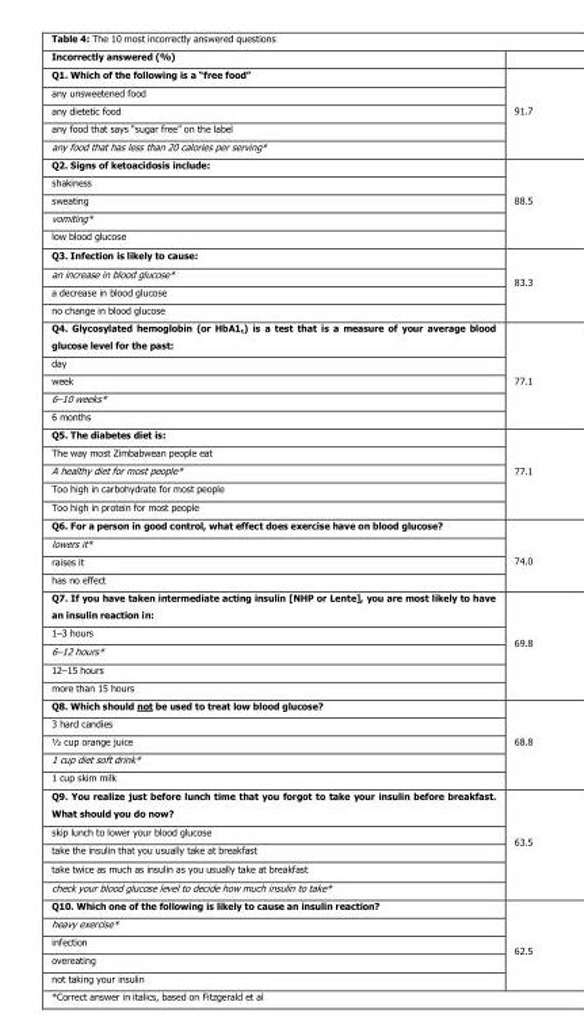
<table><thead><tr><td>Incorrectly answered (%)</td><td></td></tr></thead><tbody><tr><td>Q1. Which of the following is a “free food”</td><td rowspan="5">91.7</td></tr><tr><td>any unsweetened food</td></tr><tr><td>any dietetic food</td></tr><tr><td>any food that says “sugar free” on the label</td></tr><tr><td>any food that has less than 20 calories per serving*</td></tr><tr><td>Q2. Signs of ketoacidosis include:</td><td rowspan="5">88.5</td></tr><tr><td>shakiness</td></tr><tr><td>sweating</td></tr><tr><td>vomiting*</td></tr><tr><td>low blood glucose</td></tr><tr><td>Q3. Infection is likely to cause:</td><td rowspan="4">83.3</td></tr><tr><td>an increase in blood glucose*</td></tr><tr><td>a decrease in blood glucose</td></tr><tr><td>no change in blood glucose</td></tr><tr><td>Q4. Glycosylated hemoglobin (or HbA1<sub>c</sub>) is a test that is a measure of your average blood glucose level for the past:</td><td rowspan="5">77.1</td></tr><tr><td>day</td></tr><tr><td>week</td></tr><tr><td>6–10 weeks*</td></tr><tr><td>6 months</td></tr><tr><td>Q5. The diabetes diet is:</td><td rowspan="5">77.1</td></tr><tr><td>The way most Zimbabwean people eat</td></tr><tr><td>A healthy diet for most people*</td></tr><tr><td>Too high in carbohydrate for most people</td></tr><tr><td>Too high in protein for most people</td></tr><tr><td>Q6. For a person in good control, what effect does exercise have on blood glucose?</td><td rowspan="4">74.0</td></tr><tr><td>lowers it*</td></tr><tr><td>raises it</td></tr><tr><td>has no effect</td></tr><tr><td>Q7. If you have taken intermediate acting insulin [NHP or Lente], you are most likely to have an insulin reaction in:</td><td rowspan="5">69.8</td></tr><tr><td>1–3 hours</td></tr><tr><td>6–12 hours*</td></tr><tr><td>12–15 hours</td></tr><tr><td>more than 15 hours</td></tr><tr><td>Q8. Which should not be used to treat low blood glucose?</td><td rowspan="5">68.8</td></tr><tr><td>3 hard candies</td></tr><tr><td>½ cup orange juice</td></tr><tr><td>1 cup diet soft drink*</td></tr><tr><td>1 cup skim milk</td></tr><tr><td>Q9. You realize just before lunch time that you forgot to take your insulin before breakfast. What should you do now?</td><td rowspan="5">63.5</td></tr><tr><td>skip lunch to lower your blood glucose</td></tr><tr><td>take the insulin that you usually take at breakfast</td></tr><tr><td>take twice as much as insulin as you usually take at breakfast</td></tr><tr><td>check your blood glucose level to decide how much insulin to take*</td></tr><tr><td>Q10. Which one of the following is likely to cause an insulin reaction?</td><td rowspan="5">62.5</td></tr><tr><td>heavy exercise*</td></tr><tr><td>infection</td></tr><tr><td>overeating</td></tr><tr><td>not taking your insulin</td></tr></tbody></table>